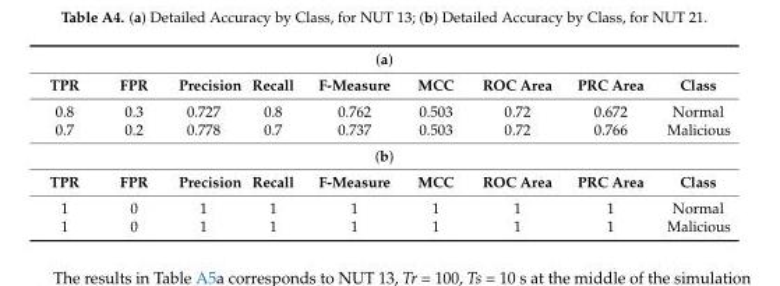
<table><tbody><tr><td colspan="9">(a)</td></tr><tr><td>TPR</td><td>FPR</td><td>Precision</td><td>Recall</td><td>F-Measure</td><td>MCC</td><td>ROC Area</td><td>PRC Area</td><td>Class</td></tr><tr><td>0.8</td><td>0.3</td><td>0.727</td><td>0.8</td><td>0.762</td><td>0.503</td><td>0.72</td><td>0.672</td><td>Normal</td></tr><tr><td>0.7</td><td>0.2</td><td>0.778</td><td>0.7</td><td>0.737</td><td>0.503</td><td>0.72</td><td>0.766</td><td>Malicious</td></tr><tr><td colspan="9">(b)</td></tr><tr><td>TPR</td><td>FPR</td><td>Precision</td><td>Recall</td><td>F-Measure</td><td>MCC</td><td>ROC Area</td><td>PRC Area</td><td>Class</td></tr><tr><td>1</td><td>0</td><td>1</td><td>1</td><td>1</td><td>1</td><td>1</td><td>1</td><td>Normal</td></tr><tr><td>1</td><td>0</td><td>1</td><td>1</td><td>1</td><td>1</td><td>1</td><td>1</td><td>Malicious</td></tr></tbody></table>